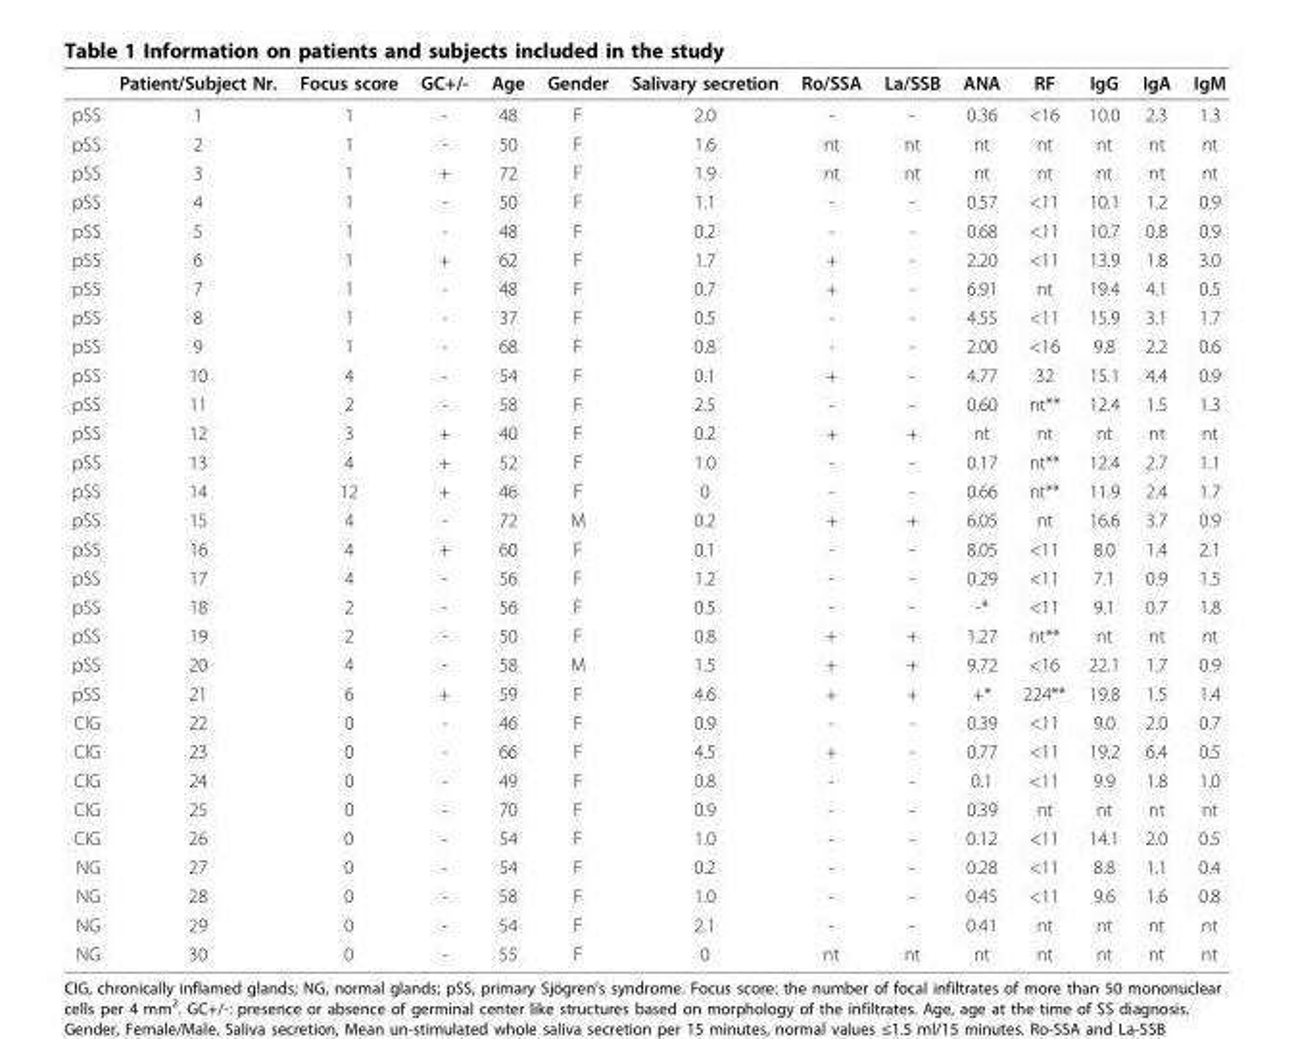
<table><thead><tr><td></td><td>Patient/Subject Nr.</td><td>Focus score</td><td>GC+/-</td><td>Age</td><td>Gender</td><td>Salivary secretion</td><td>Ro/SSA</td><td>La/SSB</td><td>ANA</td><td>RF</td><td>IgG</td><td>IgA</td><td>IgM</td></tr></thead><tbody><tr><td>pSS</td><td>1</td><td>1</td><td>-</td><td>48</td><td>F</td><td>2.0</td><td>-</td><td>-</td><td>0.36</td><td>&lt;16</td><td>10.0</td><td>2.3</td><td>1.3</td></tr><tr><td>pSS</td><td>2</td><td>1</td><td>-</td><td>50</td><td>F</td><td>1.6</td><td>nt</td><td>nt</td><td>nt</td><td>nt</td><td>nt</td><td>nt</td><td>nt</td></tr><tr><td>pSS</td><td>3</td><td>1</td><td>+</td><td>72</td><td>F</td><td>1.9</td><td>nt</td><td>nt</td><td>nt</td><td>nt</td><td>nt</td><td>nt</td><td>nt</td></tr><tr><td>pSS</td><td>4</td><td>1</td><td>-</td><td>50</td><td>F</td><td>1.1</td><td>-</td><td>-</td><td>0.57</td><td>&lt;11</td><td>10.1</td><td>1.2</td><td>0.9</td></tr><tr><td>pSS</td><td>5</td><td>1</td><td>-</td><td>48</td><td>F</td><td>0.2</td><td>-</td><td>-</td><td>0.68</td><td>&lt;11</td><td>10.7</td><td>0.8</td><td>0.9</td></tr><tr><td>pSS</td><td>6</td><td>1</td><td>+</td><td>62</td><td>F</td><td>1.7</td><td>+</td><td>-</td><td>2.20</td><td>&lt;11</td><td>13.9</td><td>1.8</td><td>3.0</td></tr><tr><td>pSS</td><td>7</td><td>1</td><td>-</td><td>48</td><td>F</td><td>0.7</td><td>+</td><td>-</td><td>6.91</td><td>nt</td><td>19.4</td><td>4.1</td><td>0.5</td></tr><tr><td>pSS</td><td>8</td><td>1</td><td>-</td><td>37</td><td>F</td><td>0.5</td><td>-</td><td>-</td><td>4.55</td><td>&lt;11</td><td>15.9</td><td>3.1</td><td>1.7</td></tr><tr><td>pSS</td><td>9</td><td>1</td><td>-</td><td>68</td><td>F</td><td>0.8</td><td>-</td><td>-</td><td>2.00</td><td>&lt;16</td><td>9.8</td><td>2.2</td><td>0.6</td></tr><tr><td>pSS</td><td>10</td><td>4</td><td>-</td><td>54</td><td>F</td><td>0.1</td><td>+</td><td>-</td><td>4.77</td><td>32</td><td>15.1</td><td>4.4</td><td>0.9</td></tr><tr><td>pSS</td><td>11</td><td>2</td><td>-</td><td>58</td><td>F</td><td>2.5</td><td>-</td><td>-</td><td>0.60</td><td>nt**</td><td>12.4</td><td>1.5</td><td>1.3</td></tr><tr><td>pSS</td><td>12</td><td>3</td><td>+</td><td>40</td><td>F</td><td>0.2</td><td>+</td><td>+</td><td>nt</td><td>nt</td><td>nt</td><td>nt</td><td>nt</td></tr><tr><td>pSS</td><td>13</td><td>4</td><td>+</td><td>52</td><td>F</td><td>1.0</td><td>-</td><td>-</td><td>0.17</td><td>nt**</td><td>12.4</td><td>2.7</td><td>1.1</td></tr><tr><td>pSS</td><td>14</td><td>12</td><td>+</td><td>46</td><td>F</td><td>0</td><td>-</td><td>-</td><td>0.66</td><td>nt**</td><td>11.9</td><td>2.4</td><td>1.7</td></tr><tr><td>pSS</td><td>15</td><td>4</td><td>-</td><td>72</td><td>M</td><td>0.2</td><td>+</td><td>+</td><td>6.05</td><td>nt</td><td>16.6</td><td>3.7</td><td>0.9</td></tr><tr><td>pSS</td><td>16</td><td>4</td><td>+</td><td>60</td><td>F</td><td>0.1</td><td>-</td><td>-</td><td>8.05</td><td>&lt;11</td><td>8.0</td><td>1.4</td><td>2.1</td></tr><tr><td>pSS</td><td>17</td><td>4</td><td>-</td><td>56</td><td>F</td><td>1.2</td><td>-</td><td>-</td><td>0.29</td><td>&lt;11</td><td>7.1</td><td>0.9</td><td>1.5</td></tr><tr><td>pSS</td><td>18</td><td>2</td><td>-</td><td>56</td><td>F</td><td>0.5</td><td>-</td><td>-</td><td>-*</td><td>&lt;11</td><td>9.1</td><td>0.7</td><td>1.8</td></tr><tr><td>pSS</td><td>19</td><td>2</td><td>-</td><td>50</td><td>F</td><td>0.8</td><td>+</td><td>+</td><td>1.27</td><td>nt**</td><td>nt</td><td>nt</td><td>nt</td></tr><tr><td>pSS</td><td>20</td><td>4</td><td>-</td><td>58</td><td>M</td><td>1.5</td><td>+</td><td>+</td><td>9.72</td><td>&lt;16</td><td>22.1</td><td>1.7</td><td>0.9</td></tr><tr><td>pSS</td><td>21</td><td>6</td><td>+</td><td>59</td><td>F</td><td>4.6</td><td>+</td><td>+</td><td>+*</td><td>224**</td><td>19.8</td><td>1.5</td><td>1.4</td></tr><tr><td>CIG</td><td>22</td><td>0</td><td>-</td><td>46</td><td>F</td><td>0.9</td><td>-</td><td>-</td><td>0.39</td><td>&lt;11</td><td>9.0</td><td>2.0</td><td>0.7</td></tr><tr><td>CIG</td><td>23</td><td>0</td><td>-</td><td>66</td><td>F</td><td>4.5</td><td>+</td><td>-</td><td>0.77</td><td>&lt;11</td><td>19.2</td><td>6.4</td><td>0.5</td></tr><tr><td>CIG</td><td>24</td><td>0</td><td>-</td><td>49</td><td>F</td><td>0.8</td><td>-</td><td>-</td><td>0.1</td><td>&lt;11</td><td>9.9</td><td>1.8</td><td>1.0</td></tr><tr><td>CIG</td><td>25</td><td>0</td><td>-</td><td>70</td><td>F</td><td>0.9</td><td>-</td><td>-</td><td>0.39</td><td>nt</td><td>nt</td><td>nt</td><td>nt</td></tr><tr><td>CIG</td><td>26</td><td>0</td><td>-</td><td>54</td><td>F</td><td>1.0</td><td>-</td><td>-</td><td>0.12</td><td>&lt;11</td><td>14.1</td><td>2.0</td><td>0.5</td></tr><tr><td>NG</td><td>27</td><td>0</td><td>-</td><td>54</td><td>F</td><td>0.2</td><td>-</td><td>-</td><td>0.28</td><td>&lt;11</td><td>8.8</td><td>1.1</td><td>0.4</td></tr><tr><td>NG</td><td>28</td><td>0</td><td>-</td><td>58</td><td>F</td><td>1.0</td><td>-</td><td>-</td><td>0.45</td><td>&lt;11</td><td>9.6</td><td>1.6</td><td>0.8</td></tr><tr><td>NG</td><td>29</td><td>0</td><td>-</td><td>54</td><td>F</td><td>2.1</td><td>-</td><td>-</td><td>0.41</td><td>nt</td><td>nt</td><td>nt</td><td>nt</td></tr><tr><td>NG</td><td>30</td><td>0</td><td>-</td><td>55</td><td>F</td><td>0</td><td>nt</td><td>nt</td><td>nt</td><td>nt</td><td>nt</td><td>nt</td><td>nt</td></tr></tbody></table>